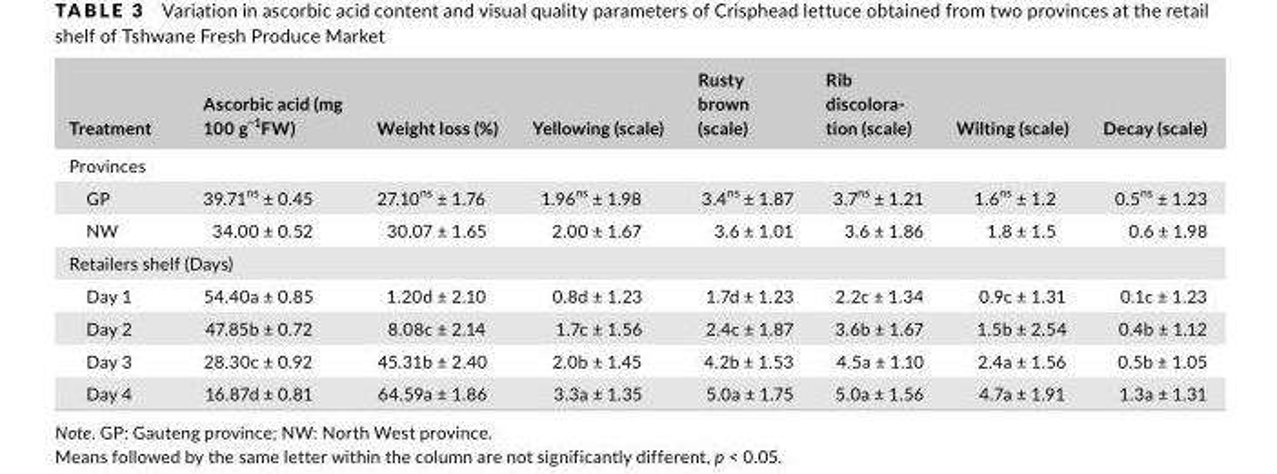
<table><thead><tr><td>Treatment</td><td>Ascorbic acid (mg 100 g<sup>−1</sup>FW)</td><td>Weight loss (%)</td><td>Yellowing (scale)</td><td>Rusty brown (scale)</td><td>Rib discolora- tion (scale)</td><td>Wilting (scale)</td><td>Decay (scale)</td></tr></thead><tbody><tr><td colspan="8">Provinces</td></tr><tr><td>GP</td><td>39.71<sup>ns</sup> ± 0.45</td><td>27.10<sup>ns</sup> ± 1.76</td><td>1.96<sup>ns</sup> ± 1.98</td><td>3.4<sup>ns</sup> ± 1.87</td><td>3.7<sup>ns</sup> ± 1.21</td><td>1.6<sup>ns</sup> ± 1.2</td><td>0.5<sup>ns</sup> ± 1.23</td></tr><tr><td>NW</td><td>34.00 ± 0.52</td><td>30.07 ± 1.65</td><td>2.00 ± 1.67</td><td>3.6 ± 1.01</td><td>3.6 ± 1.86</td><td>1.8 ± 1.5</td><td>0.6 ± 1.98</td></tr><tr><td colspan="8">Retailers shelf (Days)</td></tr><tr><td>Day 1</td><td>54.40a ± 0.85</td><td>1.20d ± 2.10</td><td>0.8d ± 1.23</td><td>1.7d ± 1.23</td><td>2.2c ± 1.34</td><td>0.9c ± 1.31</td><td>0.1c ± 1.23</td></tr><tr><td>Day 2</td><td>47.85b ± 0.72</td><td>8.08c ± 2.14</td><td>1.7c ± 1.56</td><td>2.4c ± 1.87</td><td>3.6b ± 1.67</td><td>1.5b ± 2.54</td><td>0.4b ± 1.12</td></tr><tr><td>Day 3</td><td>28.30c ± 0.92</td><td>45.31b ± 2.40</td><td>2.0b ± 1.45</td><td>4.2b ± 1.53</td><td>4.5a ± 1.10</td><td>2.4a ± 1.56</td><td>0.5b ± 1.05</td></tr><tr><td>Day 4</td><td>16.87d ± 0.81</td><td>64.59a ± 1.86</td><td>3.3a ± 1.35</td><td>5.0a ± 1.75</td><td>5.0a ± 1.56</td><td>4.7a ± 1.91</td><td>1.3a ± 1.31</td></tr></tbody></table>